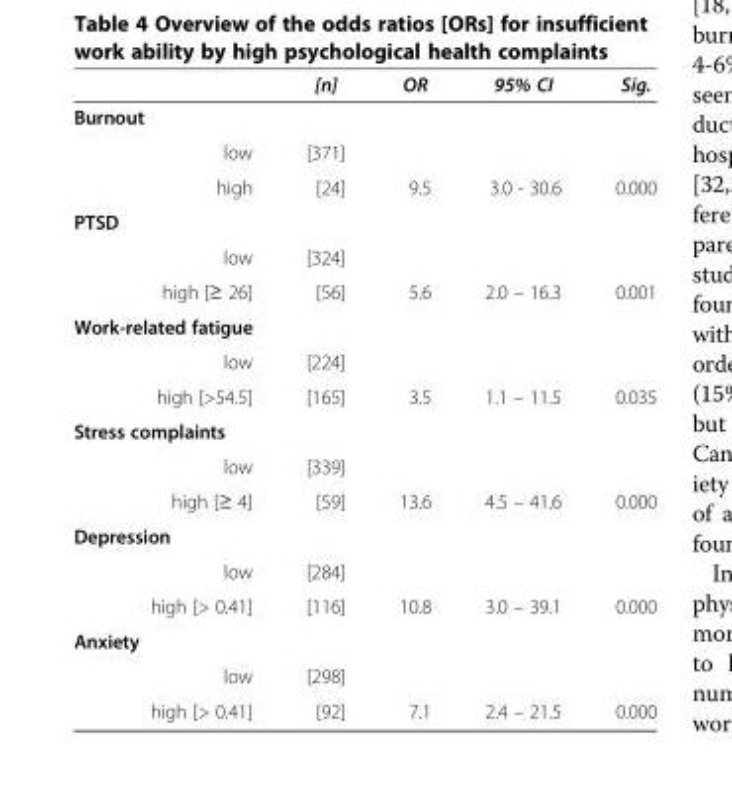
<table><thead><tr><td></td><td>[n]</td><td>OR</td><td>95% CI</td><td>Sig.</td></tr></thead><tbody><tr><td colspan="5">Burnout</td></tr><tr><td>low</td><td>[371]</td><td></td><td></td><td></td></tr><tr><td>high</td><td>[24]</td><td>9.5</td><td>3.0 - 30.6</td><td>0.000</td></tr><tr><td colspan="5">PTSD</td></tr><tr><td>low</td><td>[324]</td><td></td><td></td><td></td></tr><tr><td>high [≥ 26]</td><td>[56]</td><td>5.6</td><td>2.0 – 16.3</td><td>0.001</td></tr><tr><td colspan="5">Work-related fatigue</td></tr><tr><td>low</td><td>[224]</td><td></td><td></td><td></td></tr><tr><td>high [&gt;54.5]</td><td>[165]</td><td>3.5</td><td>1.1 – 11.5</td><td>0.035</td></tr><tr><td colspan="5">Stress complaints</td></tr><tr><td>low</td><td>[339]</td><td></td><td></td><td></td></tr><tr><td>high [≥ 4]</td><td>[59]</td><td>13.6</td><td>4.5 – 41.6</td><td>0.000</td></tr><tr><td colspan="5">Depression</td></tr><tr><td>low</td><td>[284]</td><td></td><td></td><td></td></tr><tr><td>high [&gt; 0.41]</td><td>[116]</td><td>10.8</td><td>3.0 – 39.1</td><td>0.000</td></tr><tr><td colspan="5">Anxiety</td></tr><tr><td>low</td><td>[298]</td><td></td><td></td><td></td></tr><tr><td>high [&gt; 0.41]</td><td>[92]</td><td>7.1</td><td>2.4 – 21.5</td><td>0.000</td></tr></tbody></table>